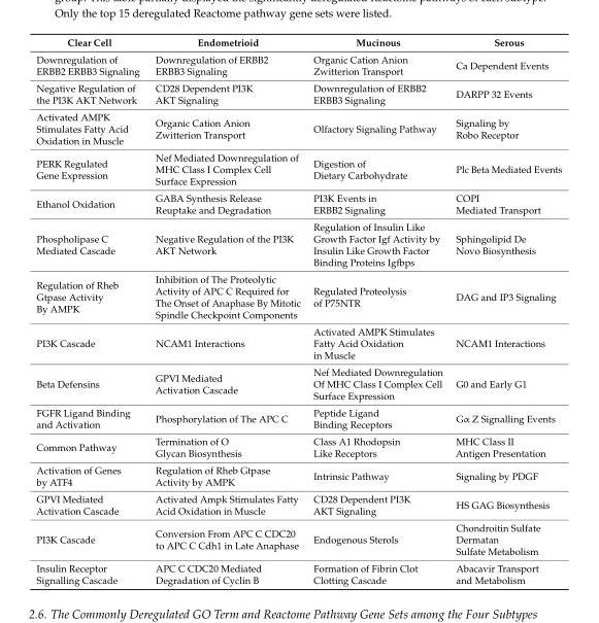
<table><thead><tr><td>Clear Cell</td><td>Endometrioid</td><td>Mucinous</td><td>Serous</td></tr></thead><tbody><tr><td>Downregulation of ERBB2 ERBB3 Signaling</td><td>Downregulation of ERBB2 ERBB3 Signaling</td><td>Organic Cation Anion Zwitterion Transport</td><td>Ca Dependent Events</td></tr><tr><td>Negative Regulation of the PI3K AKT Network</td><td>CD28 Dependent PI3K AKT Signaling</td><td>Downregulation of ERBB2 ERBB3 Signaling</td><td>DARPP 32 Events</td></tr><tr><td>Activated AMPK Stimulates Fatty Acid Oxidation in Muscle</td><td>Organic Cation Anion Zwitterion Transport</td><td>Olfactory Signaling Pathway</td><td>Signaling by Robo Receptor</td></tr><tr><td>PERK Regulated Gene Expression</td><td>Nef Mediated Downregulation of MHC Class I Complex Cell Surface Expression</td><td>Digestion of Dietary Carbohydrate</td><td>Plc Beta Mediated Events</td></tr><tr><td>Ethanol Oxidation</td><td>GABA Synthesis Release Reuptake and Degradation</td><td>PI3K Events in ERBB2 Signaling</td><td>COPI Mediated Transport</td></tr><tr><td>Phospholipase C Mediated Cascade</td><td>Negative Regulation of the PI3K AKT Network</td><td>Regulation of Insulin Like Growth Factor Igf Activity by Insulin Like Growth Factor Binding Proteins Igfbps</td><td>Sphingolipid De Novo Biosynthesis</td></tr><tr><td>Regulation of Rheb Gtpase Activity By AMPK</td><td>Inhibition of The Proteolytic Activity of APC C Required for The Onset of Anaphase By Mitotic Spindle Checkpoint Components</td><td>Regulated Proteolysis of P75NTR</td><td>DAG and IP3 Signaling</td></tr><tr><td>PI3K Cascade</td><td>NCAM1 Interactions</td><td>Activated AMPK Stimulates Fatty Acid Oxidation in Muscle</td><td>NCAM1 Interactions</td></tr><tr><td>Beta Defensins</td><td>GPVI Mediated Activation Cascade</td><td>Nef Mediated Downregulation Of MHC Class I Complex Cell Surface Expression</td><td>G0 and Early G1</td></tr><tr><td>FGFR Ligand Binding and Activation</td><td>Phosphorylation of The APC C</td><td>Peptide Ligand Binding Receptors</td><td>Gα Z Signalling Events</td></tr><tr><td>Common Pathway</td><td>Termination of O Glycan Biosynthesis</td><td>Class A1 Rhodopsin Like Receptors</td><td>MHC Class II Antigen Presentation</td></tr><tr><td>Activation of Genes by ATF4</td><td>Regulation of Rheb Gtpase Activity by AMPK</td><td>Intrinsic Pathway</td><td>Signaling by PDGF</td></tr><tr><td>GPVI Mediated Activation Cascade</td><td>Activated Ampk Stimulates Fatty Acid Oxidation in Muscle</td><td>CD28 Dependent PI3K AKT Signaling</td><td>HS GAG Biosynthesis</td></tr><tr><td>PI3K Cascade</td><td>Conversion From APC C CDC20 to APC C Cdh1 in Late Anaphase</td><td>Endogenous Sterols</td><td>Chondroitin Sulfate Dermatan Sulfate Metabolism</td></tr><tr><td>Insulin Receptor Signalling Cascade</td><td>APC C CDC20 Mediated Degradation of Cyclin B</td><td>Formation of Fibrin Clot Clotting Cascade</td><td>Abacavir Transport and Metabolism</td></tr></tbody></table>